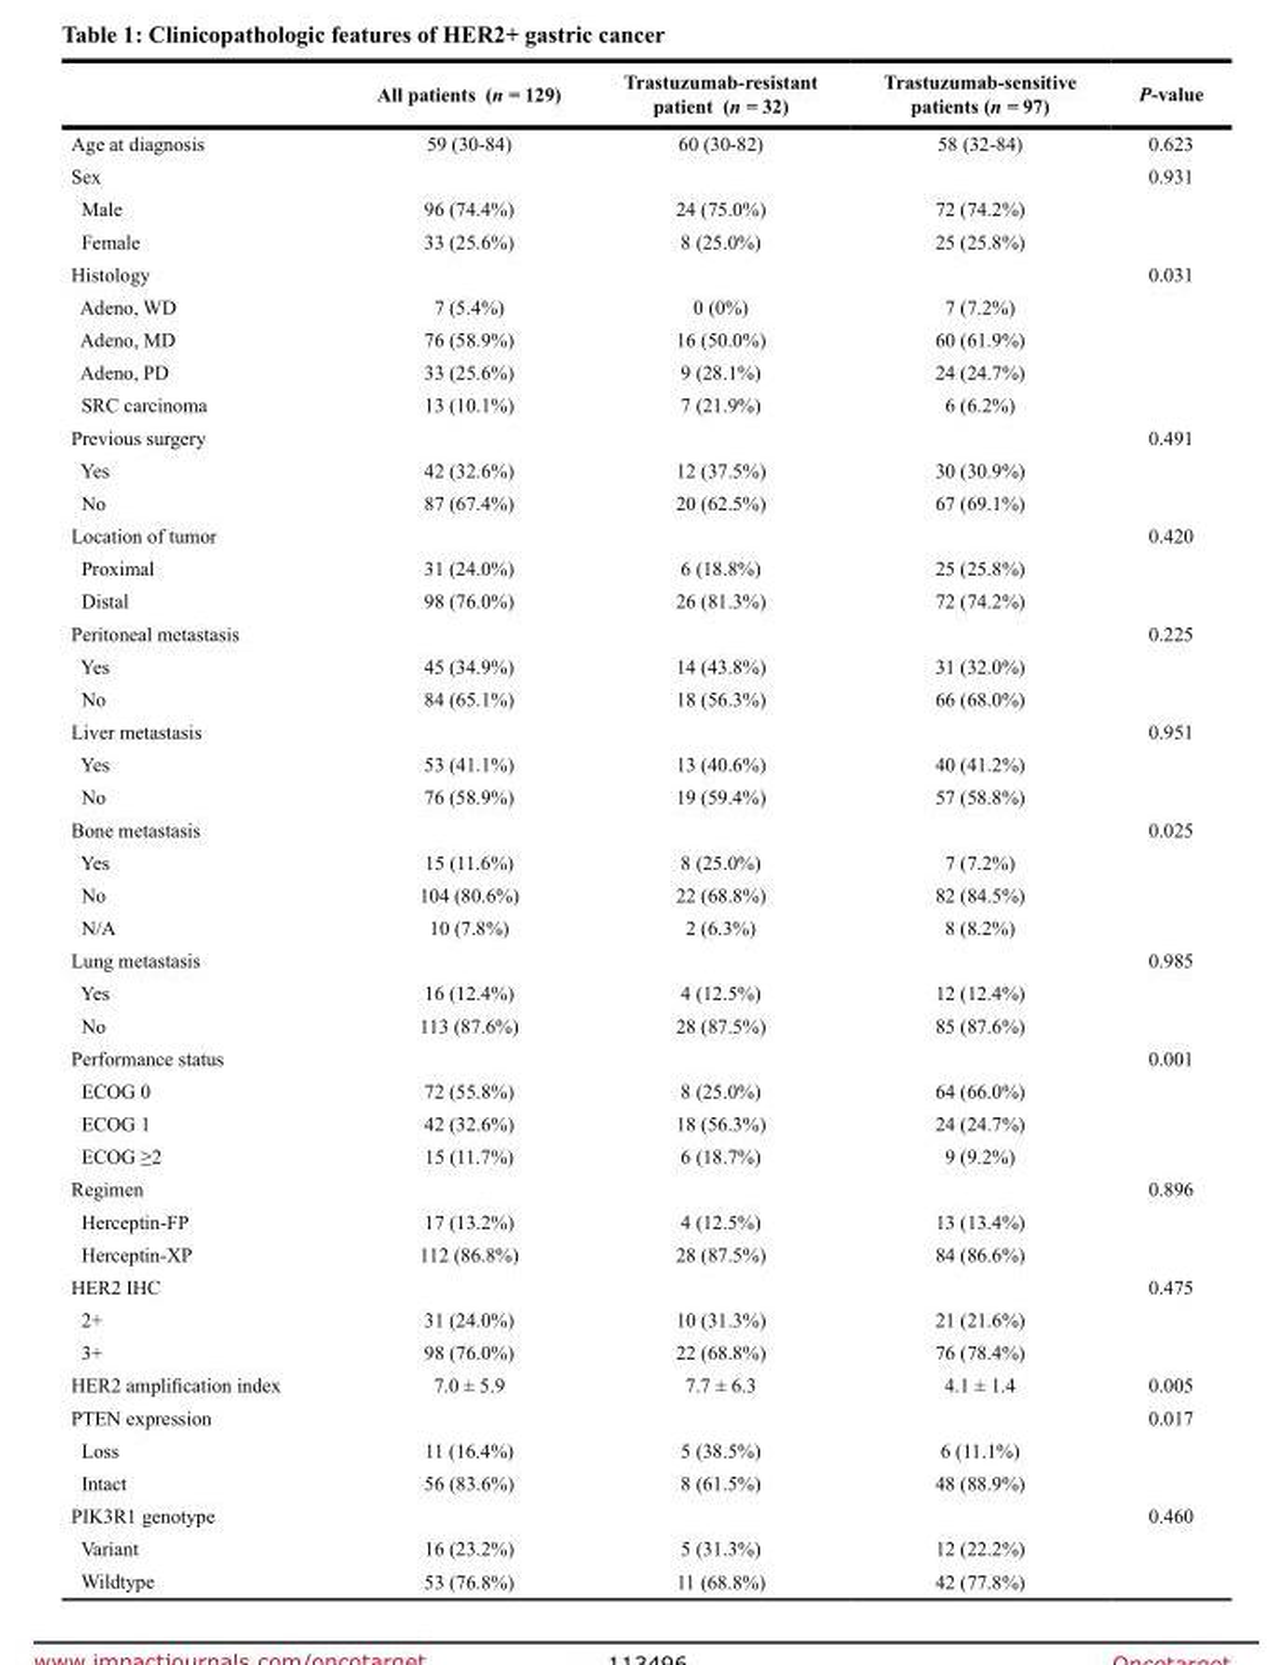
<table><thead><tr><td></td><td>All patients (n = 129)</td><td>Trastuzumab-resistant patient (n = 32)</td><td>Trastuzumab-sensitive patients (n = 97)</td><td>P-value</td></tr></thead><tbody><tr><td>Age at diagnosis</td><td>59 (30-84)</td><td>60 (30-82)</td><td>58 (32-84)</td><td>0.623</td></tr><tr><td>Sex</td><td></td><td></td><td></td><td>0.931</td></tr><tr><td>Male</td><td>96 (74.4%)</td><td>24 (75.0%)</td><td>72 (74.2%)</td><td></td></tr><tr><td>Female</td><td>33 (25.6%)</td><td>8 (25.0%)</td><td>25 (25.8%)</td><td></td></tr><tr><td>Histology</td><td></td><td></td><td></td><td>0.031</td></tr><tr><td>Adeno, WD</td><td>7 (5.4%)</td><td>0 (0%)</td><td>7 (7.2%)</td><td></td></tr><tr><td>Adeno, MD</td><td>76 (58.9%)</td><td>16 (50.0%)</td><td>60 (61.9%)</td><td></td></tr><tr><td>Adeno, PD</td><td>33 (25.6%)</td><td>9 (28.1%)</td><td>24 (24.7%)</td><td></td></tr><tr><td>SRC carcinoma</td><td>13 (10.1%)</td><td>7 (21.9%)</td><td>6 (6.2%)</td><td></td></tr><tr><td>Previous surgery</td><td></td><td></td><td></td><td>0.491</td></tr><tr><td>Yes</td><td>42 (32.6%)</td><td>12 (37.5%)</td><td>30 (30.9%)</td><td></td></tr><tr><td>No</td><td>87 (67.4%)</td><td>20 (62.5%)</td><td>67 (69.1%)</td><td></td></tr><tr><td>Location of tumor</td><td></td><td></td><td></td><td>0.420</td></tr><tr><td>Proximal</td><td>31 (24.0%)</td><td>6 (18.8%)</td><td>25 (25.8%)</td><td></td></tr><tr><td>Distal</td><td>98 (76.0%)</td><td>26 (81.3%)</td><td>72 (74.2%)</td><td></td></tr><tr><td>Peritoneal metastasis</td><td></td><td></td><td></td><td>0.225</td></tr><tr><td>Yes</td><td>45 (34.9%)</td><td>14 (43.8%)</td><td>31 (32.0%)</td><td></td></tr><tr><td>No</td><td>84 (65.1%)</td><td>18 (56.3%)</td><td>66 (68.0%)</td><td></td></tr><tr><td>Liver metastasis</td><td></td><td></td><td></td><td>0.951</td></tr><tr><td>Yes</td><td>53 (41.1%)</td><td>13 (40.6%)</td><td>40 (41.2%)</td><td></td></tr><tr><td>No</td><td>76 (58.9%)</td><td>19 (59.4%)</td><td>57 (58.8%)</td><td></td></tr><tr><td>Bone metastasis</td><td></td><td></td><td></td><td>0.025</td></tr><tr><td>Yes</td><td>15 (11.6%)</td><td>8 (25.0%)</td><td>7 (7.2%)</td><td></td></tr><tr><td>No</td><td>104 (80.6%)</td><td>22 (68.8%)</td><td>82 (84.5%)</td><td></td></tr><tr><td>N/A</td><td>10 (7.8%)</td><td>2 (6.3%)</td><td>8 (8.2%)</td><td></td></tr><tr><td>Lung metastasis</td><td></td><td></td><td></td><td>0.985</td></tr><tr><td>Yes</td><td>16 (12.4%)</td><td>4 (12.5%)</td><td>12 (12.4%)</td><td></td></tr><tr><td>No</td><td>113 (87.6%)</td><td>28 (87.5%)</td><td>85 (87.6%)</td><td></td></tr><tr><td>Performance status</td><td></td><td></td><td></td><td>0.001</td></tr><tr><td>ECOG 0</td><td>72 (55.8%)</td><td>8 (25.0%)</td><td>64 (66.0%)</td><td></td></tr><tr><td>ECOG 1</td><td>42 (32.6%)</td><td>18 (56.3%)</td><td>24 (24.7%)</td><td></td></tr><tr><td>ECOG ≥2</td><td>15 (11.7%)</td><td>6 (18.7%)</td><td>9 (9.2%)</td><td></td></tr><tr><td>Regimen</td><td></td><td></td><td></td><td>0.896</td></tr><tr><td>Herceptin-FP</td><td>17 (13.2%)</td><td>4 (12.5%)</td><td>13 (13.4%)</td><td></td></tr><tr><td>Herceptin-XP</td><td>112 (86.8%)</td><td>28 (87.5%)</td><td>84 (86.6%)</td><td></td></tr><tr><td>HER2 IHC</td><td></td><td></td><td></td><td>0.475</td></tr><tr><td>2+</td><td>31 (24.0%)</td><td>10 (31.3%)</td><td>21 (21.6%)</td><td></td></tr><tr><td>3+</td><td>98 (76.0%)</td><td>22 (68.8%)</td><td>76 (78.4%)</td><td></td></tr><tr><td>HER2 amplification index</td><td>7.0 ± 5.9</td><td>7.7 ± 6.3</td><td>4.1 ± 1.4</td><td>0.005</td></tr><tr><td>PTEN expression</td><td></td><td></td><td></td><td>0.017</td></tr><tr><td>Loss</td><td>11 (16.4%)</td><td>5 (38.5%)</td><td>6 (11.1%)</td><td></td></tr><tr><td>Intact</td><td>56 (83.6%)</td><td>8 (61.5%)</td><td>48 (88.9%)</td><td></td></tr><tr><td>PIK3R1 genotype</td><td></td><td></td><td></td><td>0.460</td></tr><tr><td>Variant</td><td>16 (23.2%)</td><td>5 (31.3%)</td><td>12 (22.2%)</td><td></td></tr><tr><td>Wildtype</td><td>53 (76.8%)</td><td>11 (68.8%)</td><td>42 (77.8%)</td><td></td></tr></tbody></table>